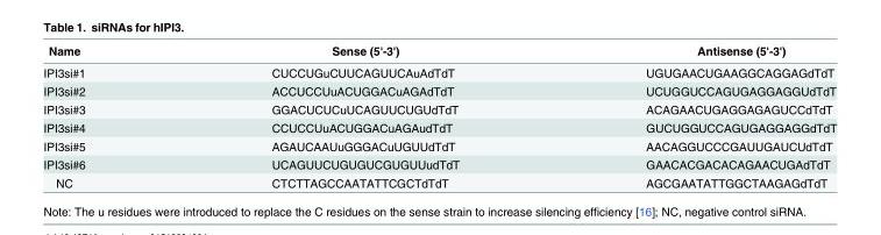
<table><thead><tr><td>Name</td><td>Sense (5&#x27;-3&#x27;)</td><td>Antisense (5&#x27;-3&#x27;)</td></tr></thead><tbody><tr><td>IPI3si#1</td><td>CUCCUGuCUUCAGUUCAuAdTdT</td><td>UGUGAACUGAAGGCAGGAGdTdT</td></tr><tr><td>IPI3si#2</td><td>ACCUCCUuACUGGACuAGAdTdT</td><td>UCUGGUCCAGUGAGGAGGUdTdT</td></tr><tr><td>IPI3si#3</td><td>GGACUCUCuUCAGUUCUGUdTdT</td><td>ACAGAACUGAGGAGAGUCCdTdT</td></tr><tr><td>IPI3si#4</td><td>CCUCCUuACUGGACuAGAudTdT</td><td>GUCUGGUCCAGUGAGGAGGdTdT</td></tr><tr><td>IPI3si#5</td><td>AGAUCAAUuGGGACuUGUUdTdT</td><td>AACAGGUCCCGAUUGAUCUdTdT</td></tr><tr><td>IPI3si#6</td><td>UCAGUUCUGUGUCGUGUUudTdT</td><td>GAACACGACACAGAACUGAdTdT</td></tr><tr><td>NC</td><td>CTCTTAGCCAATATTCGCTdTdT</td><td>AGCGAATATTGGCTAAGAGdTdT</td></tr></tbody></table>